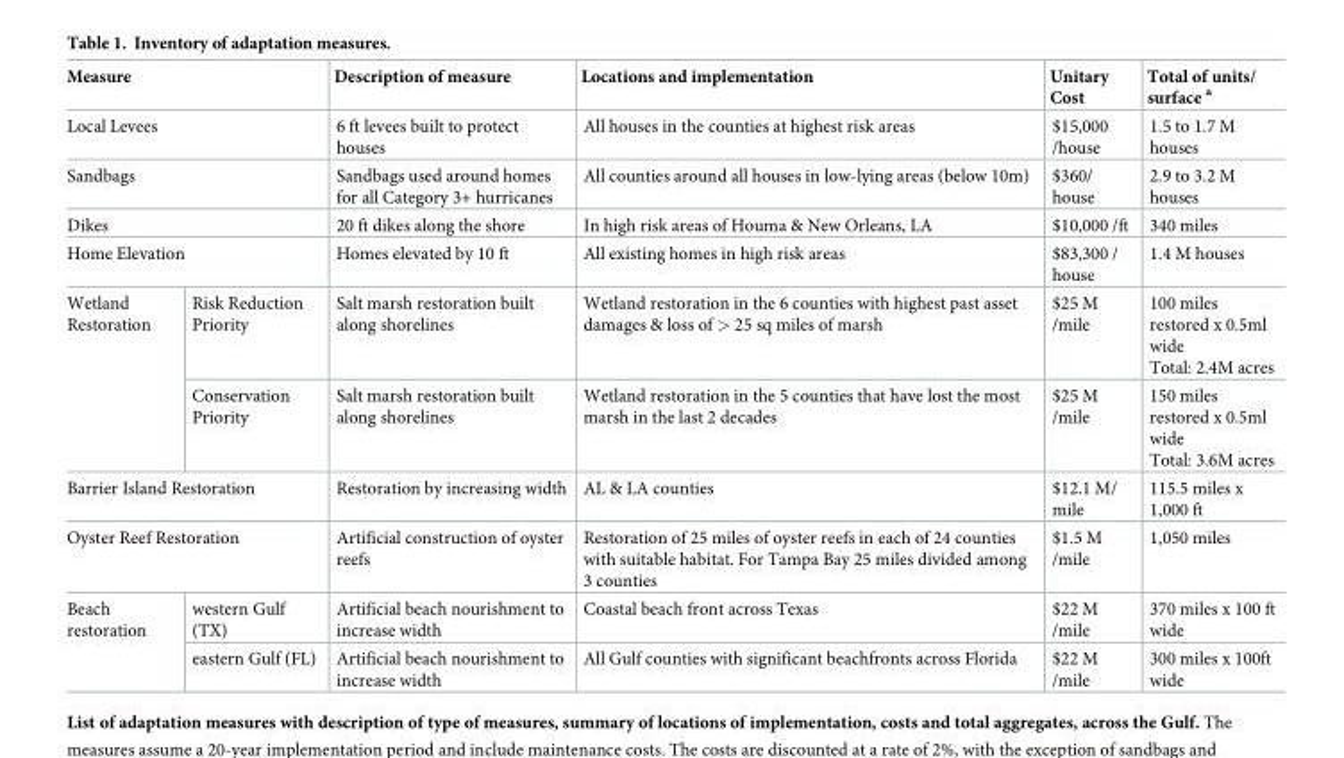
<table><thead><tr><td colspan="2">Measure</td><td>Description of measure</td><td>Locations and implementation</td><td>Unitary Cost</td><td>Total of units/ surface <sup>a</sup></td></tr></thead><tbody><tr><td colspan="2">Local Levees</td><td>6 ft levees built to protect houses</td><td>All houses in the counties at highest risk areas</td><td>$15,000 /house</td><td>1.5 to 1.7 M houses</td></tr><tr><td colspan="2">Sandbags</td><td>Sandbags used around homes for all Category 3+ hurricanes</td><td>All counties around all houses in low-lying areas (below 10m)</td><td>$360/ house</td><td>2.9 to 3.2 M houses</td></tr><tr><td colspan="2">Dikes</td><td>20 ft dikes along the shore</td><td>In high risk areas of Houma &amp; New Orleans, LA</td><td>$10,000 /ft</td><td>340 miles</td></tr><tr><td colspan="2">Home Elevation</td><td>Homes elevated by 10 ft</td><td>All existing homes in high risk areas</td><td>$83,300 / house</td><td>1.4 M houses</td></tr><tr><td rowspan="2">Wetland Restoration</td><td>Risk Reduction Priority</td><td>Salt marsh restoration built along shorelines</td><td>Wetland restoration in the 6 counties with highest past asset damages &amp; loss of &gt; 25 sq miles of marsh</td><td>$25 M /mile</td><td>100 miles restored x 0.5ml wide Total: 2.4M acres</td></tr><tr><td>Conservation Priority</td><td>Salt marsh restoration built along shorelines</td><td>Wetland restoration in the 5 counties that have lost the most marsh in the last 2 decades</td><td>$25 M /mile</td><td>150 miles restored x 0.5ml wide Total: 3.6M acres</td></tr><tr><td colspan="2">Barrier Island Restoration</td><td>Restoration by increasing width</td><td>AL &amp; LA counties</td><td>$12.1 M/ mile</td><td>115.5 miles x 1,000 ft</td></tr><tr><td colspan="2">Oyster Reef Restoration</td><td>Artificial construction of oyster reefs</td><td>Restoration of 25 miles of oyster reefs in each of 24 counties with suitable habitat. For Tampa Bay 25 miles divided among 3 counties</td><td>$1.5 M /mile</td><td>1,050 miles</td></tr><tr><td rowspan="2">Beach restoration</td><td>western Gulf (TX)</td><td>Artificial beach nourishment to increase width</td><td>Coastal beach front across Texas</td><td>$22 M /mile</td><td>370 miles x 100 ft wide</td></tr><tr><td>eastern Gulf (FL)</td><td>Artificial beach nourishment to increase width</td><td>All Gulf counties with significant beachfronts across Florida</td><td>$22 M /mile</td><td>300 miles x 100ft wide</td></tr></tbody></table>